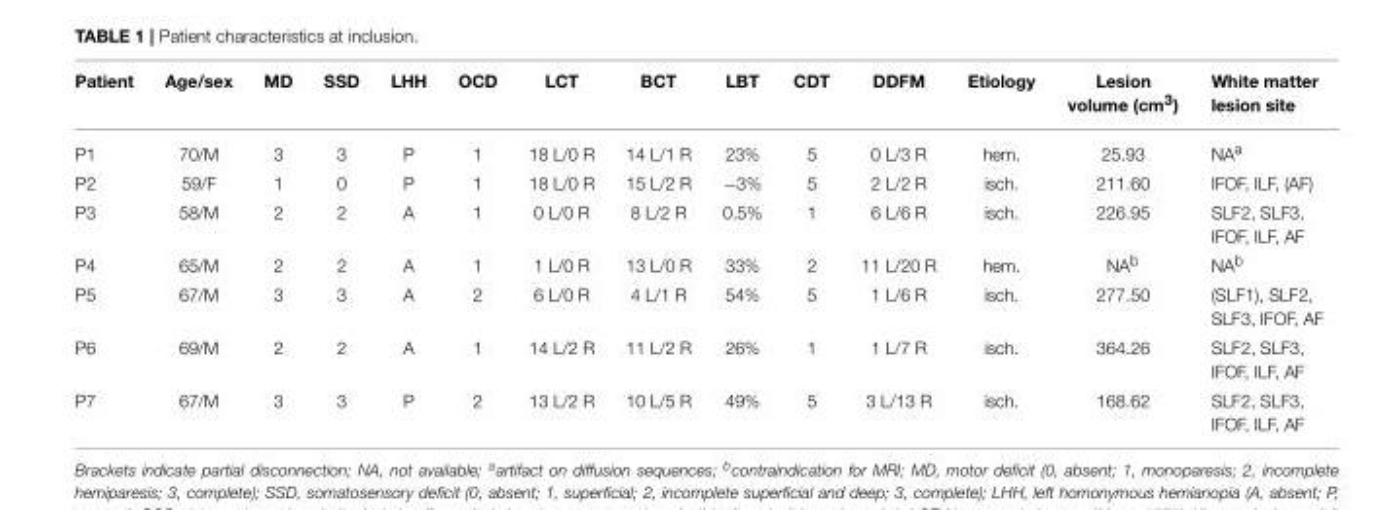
<table><thead><tr><td>Patient</td><td>Age/sex</td><td>MD</td><td>SSD</td><td>LHH</td><td>OCD</td><td>LCT</td><td>BCT</td><td>LBT</td><td>CDT</td><td>DDFM</td><td>Etiology</td><td>Lesion volume (cm<sup>3</sup>)</td><td>White matter lesion site</td></tr></thead><tbody><tr><td>P1</td><td>70/M</td><td>3</td><td>3</td><td>P</td><td>1</td><td>18 L/0 R</td><td>14 L/1 R</td><td>23%</td><td>5</td><td>0 L/3 R</td><td>hem.</td><td>25.93</td><td>NA<sup>a</sup></td></tr><tr><td>P2</td><td>59/F</td><td>1</td><td>0</td><td>P</td><td>1</td><td>18 L/0 R</td><td>15 L/2 R</td><td>−3%</td><td>5</td><td>2 L/2 R</td><td>isch.</td><td>211.60</td><td>IFOF, ILF, (AF)</td></tr><tr><td>P3</td><td>58/M</td><td>2</td><td>2</td><td>A</td><td>1</td><td>0 L/0 R</td><td>8 L/2 R</td><td>0.5%</td><td>1</td><td>6 L/6 R</td><td>isch.</td><td>226.95</td><td>SLF2, SLF3, IFOF, ILF, AF</td></tr><tr><td>P4</td><td>65/M</td><td>2</td><td>2</td><td>A</td><td>1</td><td>1 L/0 R</td><td>13 L/0 R</td><td>33%</td><td>2</td><td>11 L/20 R</td><td>hem.</td><td>NA<sup>b</sup></td><td>NA<sup>b</sup></td></tr><tr><td>P5</td><td>67/M</td><td>3</td><td>3</td><td>A</td><td>2</td><td>6 L/0 R</td><td>4 L/1 R</td><td>54%</td><td>5</td><td>1 L/6 R</td><td>isch.</td><td>277.50</td><td>(SLF1), SLF2, SLF3, IFOF, AF</td></tr><tr><td>P6</td><td>69/M</td><td>2</td><td>2</td><td>A</td><td>1</td><td>14 L/2 R</td><td>11 L/2 R</td><td>26%</td><td>1</td><td>1 L/7 R</td><td>isch.</td><td>364.26</td><td>SLF2, SLF3, IFOF, ILF, AF</td></tr><tr><td>P7</td><td>67/M</td><td>3</td><td>3</td><td>P</td><td>2</td><td>13 L/2 R</td><td>10 L/5 R</td><td>49%</td><td>5</td><td>3 L/13 R</td><td>isch.</td><td>168.62</td><td>SLF2, SLF3, IFOF, ILF, AF</td></tr></tbody></table>